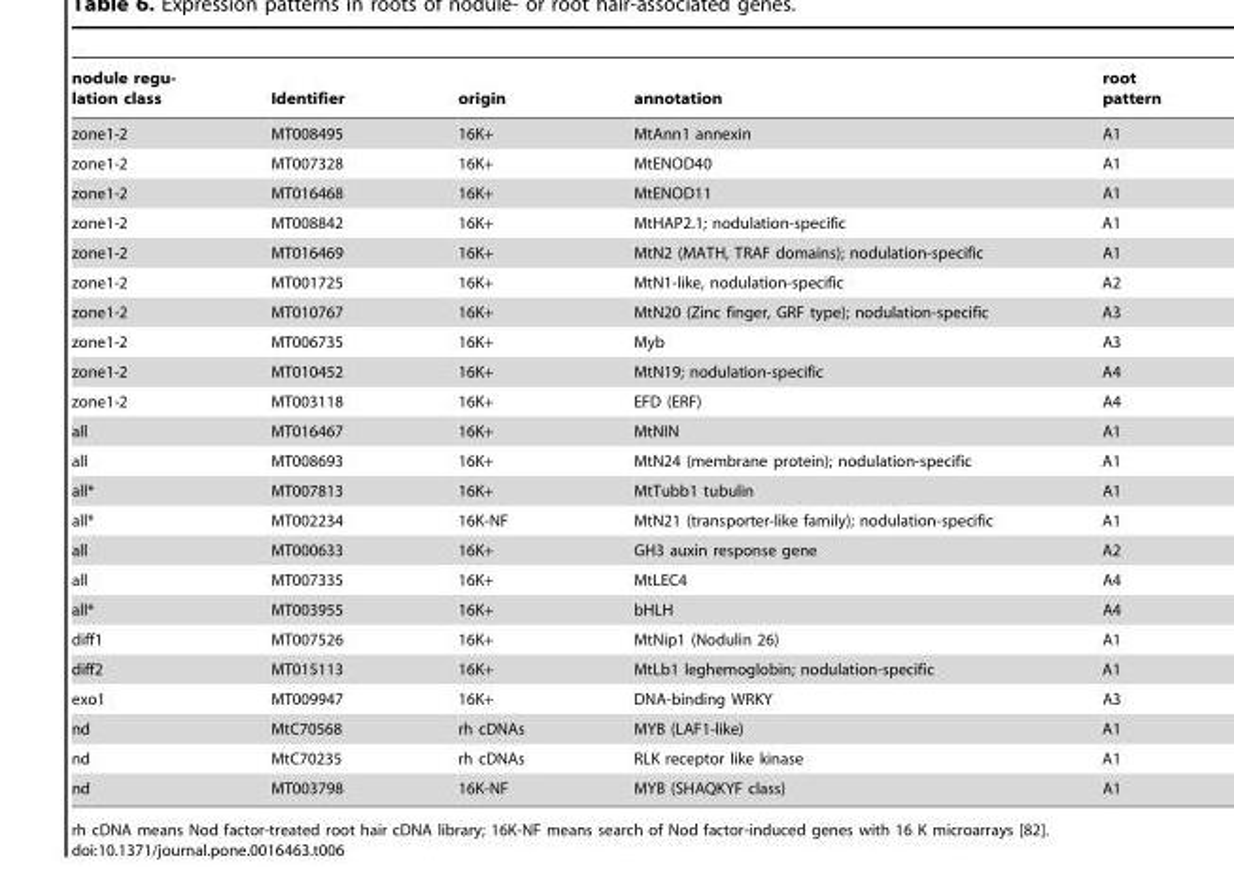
<table><thead><tr><td>nodule regu- lation class</td><td>Identifier</td><td>origin</td><td>annotation</td><td>root pattern</td></tr></thead><tbody><tr><td>zone1-2</td><td>MT008495</td><td>16K+</td><td>MtAnn1 annexin</td><td>A1</td></tr><tr><td>zone1-2</td><td>MT007328</td><td>16K+</td><td>MtENOD40</td><td>A1</td></tr><tr><td>zone1-2</td><td>MT016468</td><td>16K+</td><td>MtENOD11</td><td>A1</td></tr><tr><td>zone1-2</td><td>MT008842</td><td>16K+</td><td>MtHAP2.1; nodulation-specific</td><td>A1</td></tr><tr><td>zone1-2</td><td>MT016469</td><td>16K+</td><td>MtN2 (MATH, TRAF domains); nodulation-specific</td><td>A1</td></tr><tr><td>zone1-2</td><td>MT001725</td><td>16K+</td><td>MtN1-like, nodulation-specific</td><td>A2</td></tr><tr><td>zone1-2</td><td>MT010767</td><td>16K+</td><td>MtN20 (Zinc finger, GRF type); nodulation-specific</td><td>A3</td></tr><tr><td>zone1-2</td><td>MT006735</td><td>16K+</td><td>Myb</td><td>A3</td></tr><tr><td>zone1-2</td><td>MT010452</td><td>16K+</td><td>MtN19; nodulation-specific</td><td>A4</td></tr><tr><td>zone1-2</td><td>MT003118</td><td>16K+</td><td>EFD (ERF)</td><td>A4</td></tr><tr><td>all</td><td>MT016467</td><td>16K+</td><td>MtNIN</td><td>A1</td></tr><tr><td>all</td><td>MT008693</td><td>16K+</td><td>MtN24 (membrane protein); nodulation-specific</td><td>A1</td></tr><tr><td>all*</td><td>MT007813</td><td>16K+</td><td>MtTubb1 tubulin</td><td>A1</td></tr><tr><td>all*</td><td>MT002234</td><td>16K-NF</td><td>MtN21 (transporter-like family); nodulation-specific</td><td>A1</td></tr><tr><td>all</td><td>MT000633</td><td>16K+</td><td>GH3 auxin response gene</td><td>A2</td></tr><tr><td>all</td><td>MT007335</td><td>16K+</td><td>MtLEC4</td><td>A4</td></tr><tr><td>all*</td><td>MT003955</td><td>16K+</td><td>bHLH</td><td>A4</td></tr><tr><td>diff1</td><td>MT007526</td><td>16K+</td><td>MtNip1 (Nodulin 26)</td><td>A1</td></tr><tr><td>diff2</td><td>MT015113</td><td>16K+</td><td>MtLb1 leghemoglobin; nodulation-specific</td><td>A1</td></tr><tr><td>exo1</td><td>MT009947</td><td>16K+</td><td>DNA-binding WRKY</td><td>A3</td></tr><tr><td>nd</td><td>MtC70568</td><td>rh cDNAs</td><td>MYB (LAF1-like)</td><td>A1</td></tr><tr><td>nd</td><td>MtC70235</td><td>rh cDNAs</td><td>RLK receptor like kinase</td><td>A1</td></tr><tr><td>nd</td><td>MT003798</td><td>16K-NF</td><td>MYB (SHAQKYF class)</td><td>A1</td></tr></tbody></table>